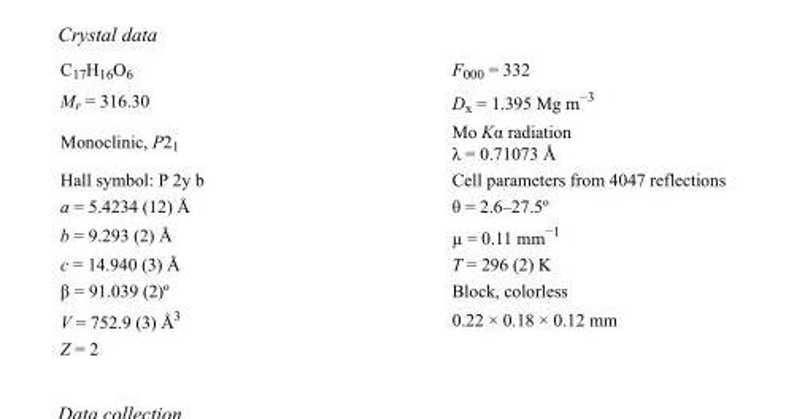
<table><tbody><tr><td>C<sub>17</sub>H<sub>16</sub>O<sub>6</sub></td><td>F<sub>000</sub> = 332</td></tr><tr><td>M<sub>r</sub> = 316.30</td><td>D<sub>x</sub> = 1.395 Mg m<sup>−3</sup></td></tr><tr><td>Monoclinic, P2<sub>1</sub></td><td>Mo Kα radiation λ = 0.71073 Å</td></tr><tr><td>Hall symbol: P 2y b</td><td>Cell parameters from 4047 reflections</td></tr><tr><td>a = 5.4234 (12) Å</td><td>θ = 2.6–27.5º</td></tr><tr><td>b = 9.293 (2) Å</td><td>µ = 0.11 mm<sup>−1</sup></td></tr><tr><td>c = 14.940 (3) Å</td><td>T = 296 (2) K</td></tr><tr><td>β = 91.039 (2)º</td><td>Block, colorless</td></tr><tr><td>V = 752.9 (3) Å<sup>3</sup></td><td>0.22 × 0.18 × 0.12 mm</td></tr><tr><td>Z = 2</td><td></td></tr></tbody></table>